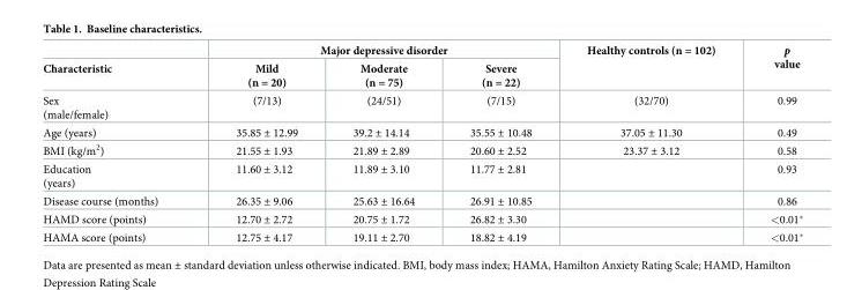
<table><thead><tr><td rowspan="2">Characteristic</td><td colspan="3">Major depressive disorder</td><td rowspan="2">Healthy controls (n = 102)</td><td rowspan="2">p value</td></tr><tr><td>Mild (n = 20)</td><td>Moderate (n = 75)</td><td>Severe (n = 22)</td></tr></thead><tbody><tr><td>Sex (male/female)</td><td>(7/13)</td><td>(24/51)</td><td>(7/15)</td><td>(32/70)</td><td>0.99</td></tr><tr><td>Age (years)</td><td>35.85 ± 12.99</td><td>39.2 ± 14.14</td><td>35.55 ± 10.48</td><td>37.05 ± 11.30</td><td>0.49</td></tr><tr><td>BMI (kg/m<sup>2</sup>)</td><td>21.55 ± 1.93</td><td>21.89 ± 2.89</td><td>20.60 ± 2.52</td><td>23.37 ± 3.12</td><td>0.58</td></tr><tr><td>Education (years)</td><td>11.60 ± 3.12</td><td>11.89 ± 3.10</td><td>11.77 ± 2.81</td><td></td><td>0.93</td></tr><tr><td>Disease course (months)</td><td>26.35 ± 9.06</td><td>25.63 ± 16.64</td><td>26.91 ± 10.85</td><td></td><td>0.86</td></tr><tr><td>HAMD score (points)</td><td>12.70 ± 2.72</td><td>20.75 ± 1.72</td><td>26.82 ± 3.30</td><td></td><td>&lt;0.01*</td></tr><tr><td>HAMA score (points)</td><td>12.75 ± 4.17</td><td>19.11 ± 2.70</td><td>18.82 ± 4.19</td><td></td><td>&lt;0.01*</td></tr></tbody></table>